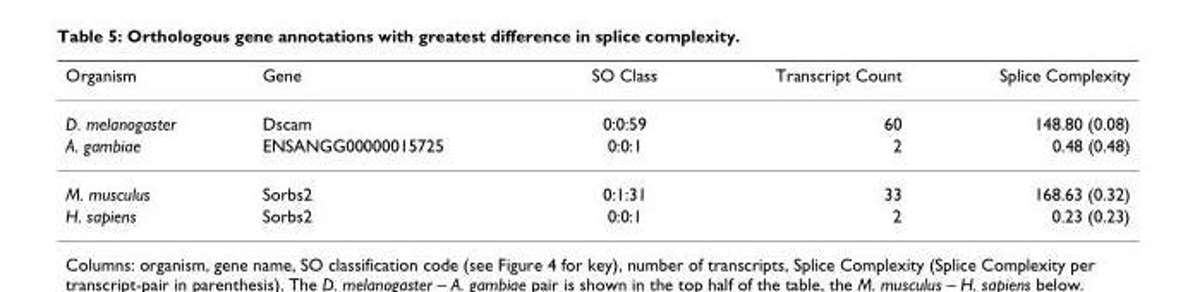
<table><thead><tr><td>Organism</td><td>Gene</td><td>SO Class</td><td>Transcript Count</td><td>Splice Complexity</td></tr></thead><tbody><tr><td>D. melanogaster</td><td>Dscam</td><td>0:0:59</td><td>60</td><td>148.80 (0.08)</td></tr><tr><td>A. gambiae</td><td>ENSANGG00000015725</td><td>0:0:1</td><td>2</td><td>0.48 (0.48)</td></tr><tr><td>M. musculus</td><td>Sorbs2</td><td>0:1:31</td><td>33</td><td>168.63 (0.32)</td></tr><tr><td>H. sapiens</td><td>Sorbs2</td><td>0:0:1</td><td>2</td><td>0.23 (0.23)</td></tr></tbody></table>